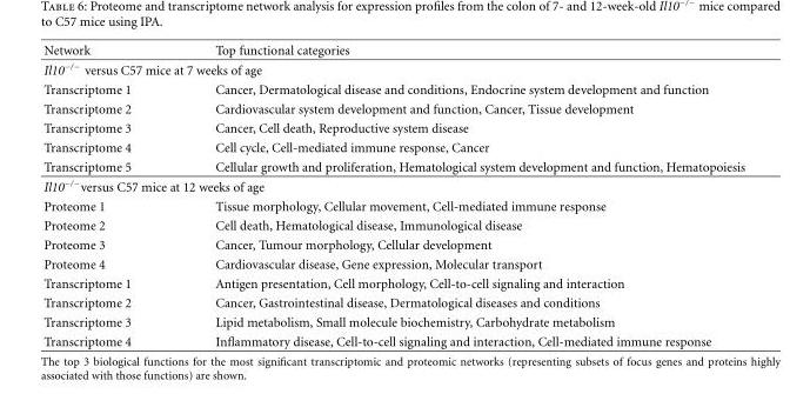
<table><thead><tr><td>Network</td><td>Top functional categories</td></tr></thead><tbody><tr><td colspan="2">Il10<sup>−/−</sup> versus C57 mice at 7 weeks of age</td></tr><tr><td>Transcriptome 1</td><td>Cancer, Dermatological disease and conditions, Endocrine system development and function</td></tr><tr><td>Transcriptome 2</td><td>Cardiovascular system development and function, Cancer, Tissue development</td></tr><tr><td>Transcriptome 3</td><td>Cancer, Cell death, Reproductive system disease</td></tr><tr><td>Transcriptome 4</td><td>Cell cycle, Cell-mediated immune response, Cancer</td></tr><tr><td>Transcriptome 5</td><td>Cellular growth and proliferation, Hematological system development and function, Hematopoiesis</td></tr><tr><td colspan="2">Il10<sup>−/−</sup>versus C57 mice at 12 weeks of age</td></tr><tr><td>Proteome 1</td><td>Tissue morphology, Cellular movement, Cell-mediated immune response</td></tr><tr><td>Proteome 2</td><td>Cell death, Hematological disease, Immunological disease</td></tr><tr><td>Proteome 3</td><td>Cancer, Tumour morphology, Cellular development</td></tr><tr><td>Proteome 4</td><td>Cardiovascular disease, Gene expression, Molecular transport</td></tr><tr><td>Transcriptome 1</td><td>Antigen presentation, Cell morphology, Cell-to-cell signaling and interaction</td></tr><tr><td>Transcriptome 2</td><td>Cancer, Gastrointestinal disease, Dermatological diseases and conditions</td></tr><tr><td>Transcriptome 3</td><td>Lipid metabolism, Small molecule biochemistry, Carbohydrate metabolism</td></tr><tr><td>Transcriptome 4</td><td>Inflammatory disease, Cell-to-cell signaling and interaction, Cell-mediated immune response</td></tr></tbody></table>